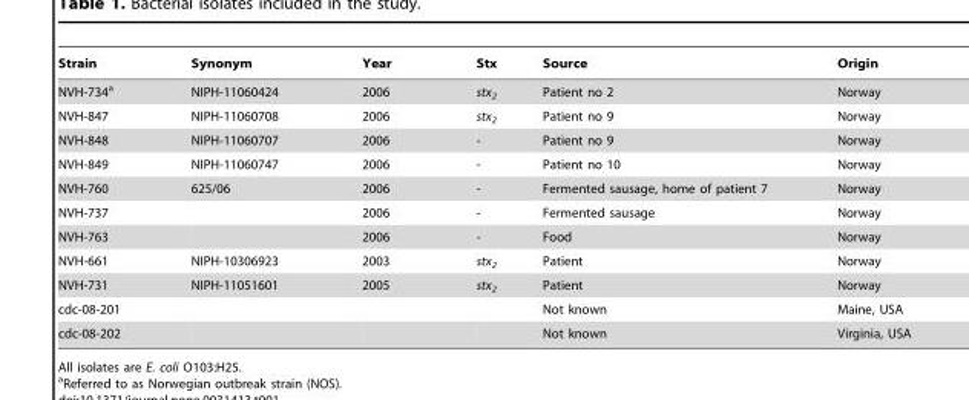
<table><thead><tr><td>Strain</td><td>Synonym</td><td>Year</td><td>Stx</td><td>Source</td><td>Origin</td></tr></thead><tbody><tr><td>NVH-734<sup>a</sup></td><td>NIPH-11060424</td><td>2006</td><td>stx<sub>2</sub></td><td>Patient no 2</td><td>Norway</td></tr><tr><td>NVH-847</td><td>NIPH-11060708</td><td>2006</td><td>stx<sub>2</sub></td><td>Patient no 9</td><td>Norway</td></tr><tr><td>NVH-848</td><td>NIPH-11060707</td><td>2006</td><td>-</td><td>Patient no 9</td><td>Norway</td></tr><tr><td>NVH-849</td><td>NIPH-11060747</td><td>2006</td><td>-</td><td>Patient no 10</td><td>Norway</td></tr><tr><td>NVH-760</td><td>625/06</td><td>2006</td><td>-</td><td>Fermented sausage, home of patient 7</td><td>Norway</td></tr><tr><td>NVH-737</td><td></td><td>2006</td><td>-</td><td>Fermented sausage</td><td>Norway</td></tr><tr><td>NVH-763</td><td></td><td>2006</td><td>-</td><td>Food</td><td>Norway</td></tr><tr><td>NVH-661</td><td>NIPH-10306923</td><td>2003</td><td>stx<sub>2</sub></td><td>Patient</td><td>Norway</td></tr><tr><td>NVH-731</td><td>NIPH-11051601</td><td>2005</td><td>stx<sub>2</sub></td><td>Patient</td><td>Norway</td></tr><tr><td>cdc-08-201</td><td></td><td></td><td></td><td>Not known</td><td>Maine, USA</td></tr><tr><td>cdc-08-202</td><td></td><td></td><td></td><td>Not known</td><td>Virginia, USA</td></tr></tbody></table>